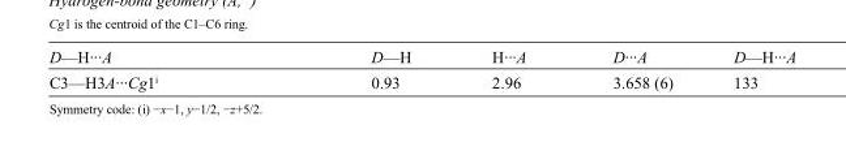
<table><tbody><tr><td>D—H···A</td><td>D—H</td><td>H···A</td><td>D···A</td><td>D—H···A</td></tr><tr><td>C3—H3A···Cg1<sup>i</sup></td><td>0.93</td><td>2.96</td><td>3.658 (6)</td><td>133</td></tr></tbody></table>